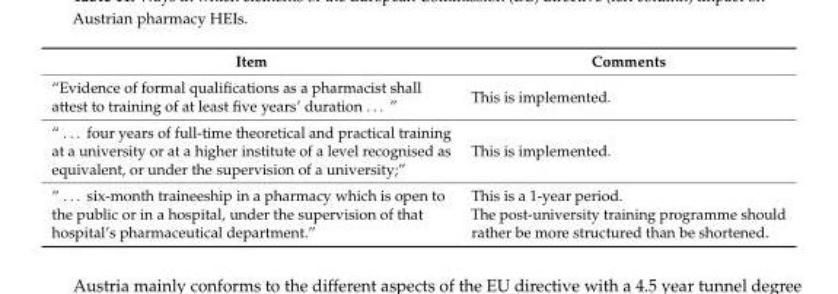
<table><thead><tr><td>Item</td><td>Comments</td></tr></thead><tbody><tr><td>“Evidence of formal qualifications as a pharmacist shall attest to training of at least five years’ duration . . . ”</td><td>This is implemented.</td></tr><tr><td>“ . . . four years of full-time theoretical and practical training at a university or at a higher institute of a level recognised as equivalent, or under the supervision of a university;”</td><td>This is implemented.</td></tr><tr><td>“ . . . six-month traineeship in a pharmacy which is open to the public or in a hospital, under the supervision of that hospital’s pharmaceutical department.”</td><td>This is a 1-year period. The post-university training programme should rather be more structured than be shortened.</td></tr></tbody></table>